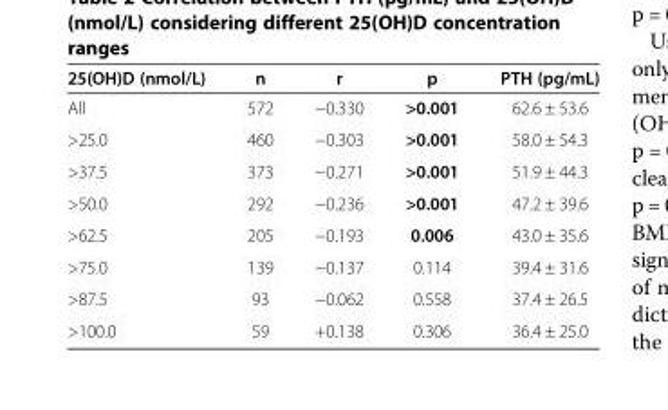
<table><thead><tr><td>25(OH)D (nmol/L)</td><td>n</td><td>r</td><td>p</td><td>PTH (pg/mL)</td></tr></thead><tbody><tr><td>All</td><td>572</td><td>−0.330</td><td>&gt;0.001</td><td>62.6 ± 53.6</td></tr><tr><td>&gt;25.0</td><td>460</td><td>−0.303</td><td>&gt;0.001</td><td>58.0 ± 54.3</td></tr><tr><td>&gt;37.5</td><td>373</td><td>−0.271</td><td>&gt;0.001</td><td>51.9 ± 44.3</td></tr><tr><td>&gt;50.0</td><td>292</td><td>−0.236</td><td>&gt;0.001</td><td>47.2 ± 39.6</td></tr><tr><td>&gt;62.5</td><td>205</td><td>−0.193</td><td>0.006</td><td>43.0 ± 35.6</td></tr><tr><td>&gt;75.0</td><td>139</td><td>−0.137</td><td>0.114</td><td>39.4 ± 31.6</td></tr><tr><td>&gt;87.5</td><td>93</td><td>−0.062</td><td>0.558</td><td>37.4 ± 26.5</td></tr><tr><td>&gt;100.0</td><td>59</td><td>+0.138</td><td>0.306</td><td>36.4 ± 25.0</td></tr></tbody></table>